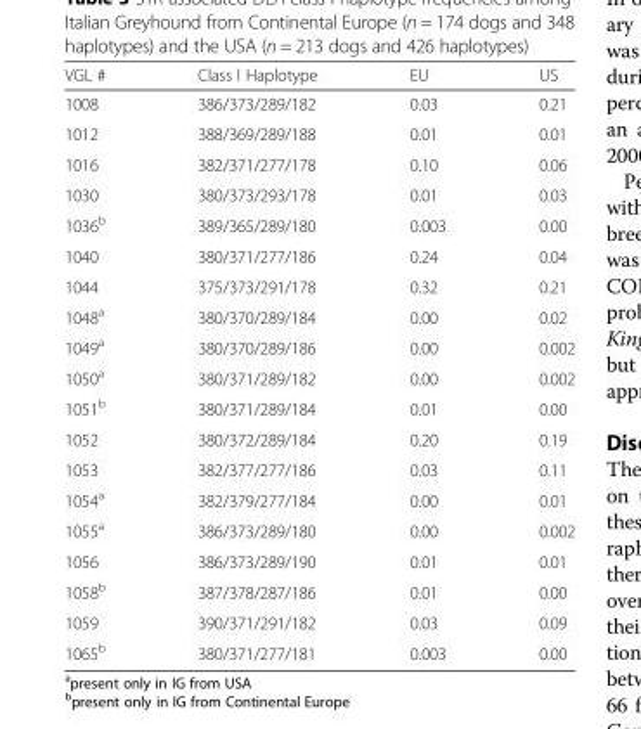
<table><thead><tr><td>VGL #</td><td>Class I Haplotype</td><td>EU</td><td>US</td></tr></thead><tbody><tr><td>1008</td><td>386/373/289/182</td><td>0.03</td><td>0.21</td></tr><tr><td>1012</td><td>388/369/289/188</td><td>0.01</td><td>0.01</td></tr><tr><td>1016</td><td>382/371/277/178</td><td>0.10</td><td>0.06</td></tr><tr><td>1030</td><td>380/373/293/178</td><td>0.01</td><td>0.03</td></tr><tr><td>1036<sup>b</sup></td><td>389/365/289/180</td><td>0.003</td><td>0.00</td></tr><tr><td>1040</td><td>380/371/277/186</td><td>0.24</td><td>0.04</td></tr><tr><td>1044</td><td>375/373/291/178</td><td>0.32</td><td>0.21</td></tr><tr><td>1048<sup>a</sup></td><td>380/370/289/184</td><td>0.00</td><td>0.02</td></tr><tr><td>1049<sup>a</sup></td><td>380/370/289/186</td><td>0.00</td><td>0.002</td></tr><tr><td>1050<sup>a</sup></td><td>380/371/289/182</td><td>0.00</td><td>0.002</td></tr><tr><td>1051<sup>b</sup></td><td>380/371/289/184</td><td>0.01</td><td>0.00</td></tr><tr><td>1052</td><td>380/372/289/184</td><td>0.20</td><td>0.19</td></tr><tr><td>1053</td><td>382/377/277/186</td><td>0.03</td><td>0.11</td></tr><tr><td>1054<sup>a</sup></td><td>382/379/277/184</td><td>0.00</td><td>0.01</td></tr><tr><td>1055<sup>a</sup></td><td>386/373/289/180</td><td>0.00</td><td>0.002</td></tr><tr><td>1056</td><td>386/373/289/190</td><td>0.01</td><td>0.01</td></tr><tr><td>1058<sup>b</sup></td><td>387/378/287/186</td><td>0.01</td><td>0.00</td></tr><tr><td>1059</td><td>390/371/291/182</td><td>0.03</td><td>0.09</td></tr><tr><td>1065<sup>b</sup></td><td>380/371/277/181</td><td>0.003</td><td>0.00</td></tr></tbody></table>